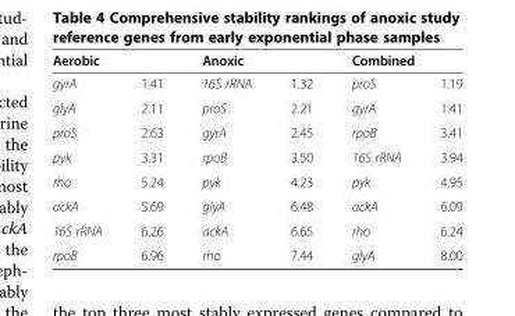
<table><thead><tr><td colspan="2">Aerobic</td><td colspan="2">Anoxic</td><td colspan="2">Combined</td></tr><tr><td>gyrA</td><td>1.41</td><td>16S rRNA</td><td>1.32</td><td>proS</td><td>1.19</td></tr></thead><tbody><tr><td>glyA</td><td>2.11</td><td>proS</td><td>2.21</td><td>gyrA</td><td>1.41</td></tr><tr><td>proS</td><td>2.63</td><td>gyrA</td><td>2.45</td><td>rpoB</td><td>3.41</td></tr><tr><td>pyk</td><td>3.31</td><td>rpoB</td><td>3.50</td><td>16S rRNA</td><td>3.94</td></tr><tr><td>rho</td><td>5.24</td><td>pyk</td><td>4.23</td><td>pyk</td><td>4.95</td></tr><tr><td>ackA</td><td>5.69</td><td>glyA</td><td>6.48</td><td>ackA</td><td>6.09</td></tr><tr><td>16S rRNA</td><td>6.26</td><td>ackA</td><td>6.65</td><td>rho</td><td>6.24</td></tr><tr><td>rpoB</td><td>6.96</td><td>rho</td><td>7.44</td><td>glyA</td><td>8.00</td></tr></tbody></table>